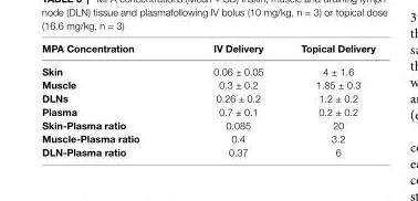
<table><thead><tr><td>MPA Concentration</td><td>IV Delivery</td><td>Topical Delivery</td></tr></thead><tbody><tr><td>Skin</td><td>0.06 ± 0.05</td><td>4 ± 1.6</td></tr><tr><td>Muscle</td><td>0.3 ± 0.2</td><td>1.85 ± 0.3</td></tr><tr><td>DLNs</td><td>0.26 ± 0.2</td><td>1.2 ± 0.2</td></tr><tr><td>Plasma</td><td>0.7 ± 0.1</td><td>0.2 ± 0.2</td></tr><tr><td>Skin-Plasma ratio</td><td>0.085</td><td>20</td></tr><tr><td>Muscle-Plasma ratio</td><td>0.4</td><td>3.2</td></tr><tr><td>DLN-Plasma ratio</td><td>0.37</td><td>6</td></tr></tbody></table>